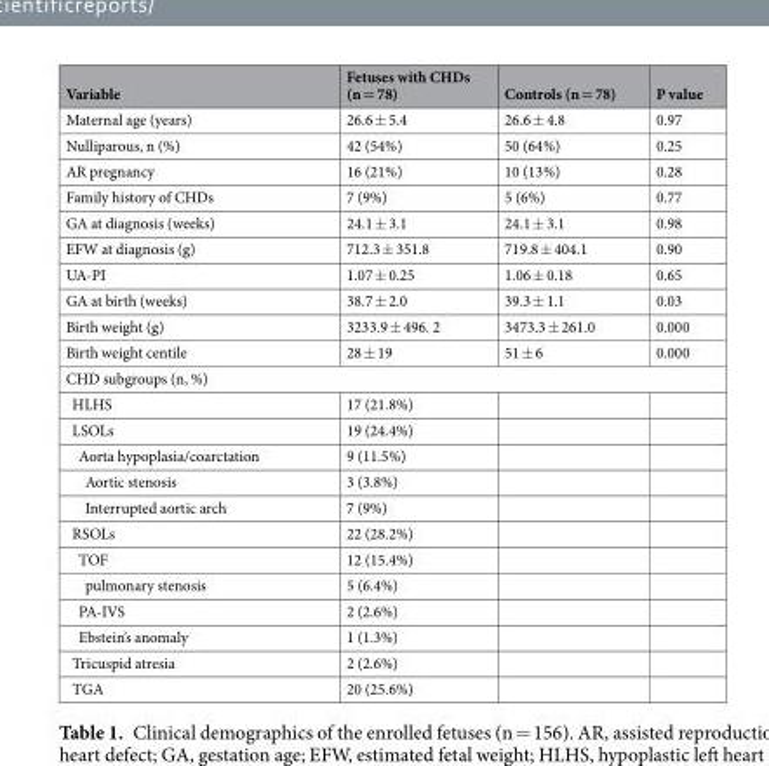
<table><thead><tr><td>Variable</td><td>Fetuses with CHDs (n = 78)</td><td>Controls (n = 78)</td><td>P value</td></tr></thead><tbody><tr><td>Maternal age (years)</td><td>26.6 ± 5.4</td><td>26.6 ± 4.8</td><td>0.97</td></tr><tr><td>Nulliparous, n (%)</td><td>42 (54%)</td><td>50 (64%)</td><td>0.25</td></tr><tr><td>AR pregnancy</td><td>16 (21%)</td><td>10 (13%)</td><td>0.28</td></tr><tr><td>Family history of CHDs</td><td>7 (9%)</td><td>5 (6%)</td><td>0.77</td></tr><tr><td>GA at diagnosis (weeks)</td><td>24.1 ± 3.1</td><td>24.1 ± 3.1</td><td>0.98</td></tr><tr><td>EFW at diagnosis (g)</td><td>712.3 ± 351.8</td><td>719.8 ± 404.1</td><td>0.90</td></tr><tr><td>UA-PI</td><td>1.07 ± 0.25</td><td>1.06 ± 0.18</td><td>0.65</td></tr><tr><td>GA at birth (weeks)</td><td>38.7 ± 2.0</td><td>39.3 ± 1.1</td><td>0.03</td></tr><tr><td>Birth weight (g)</td><td>3233.9 ± 496. 2</td><td>3473.3 ± 261.0</td><td>0.000</td></tr><tr><td>Birth weight centile</td><td>28 ± 19</td><td>51 ± 6</td><td>0.000</td></tr><tr><td colspan="4">CHD subgroups (n, %)</td></tr><tr><td>HLHS</td><td>17 (21.8%)</td><td></td><td></td></tr><tr><td>LSOLs</td><td>19 (24.4%)</td><td></td><td></td></tr><tr><td>Aorta hypoplasia/coarctation</td><td>9 (11.5%)</td><td></td><td></td></tr><tr><td>Aortic stenosis</td><td>3 (3.8%)</td><td></td><td></td></tr><tr><td>Interrupted aortic arch</td><td>7 (9%)</td><td></td><td></td></tr><tr><td>RSOLs</td><td>22 (28.2%)</td><td></td><td></td></tr><tr><td>TOF</td><td>12 (15.4%)</td><td></td><td></td></tr><tr><td>pulmonary stenosis</td><td>5 (6.4%)</td><td></td><td></td></tr><tr><td>PA-IVS</td><td>2 (2.6%)</td><td></td><td></td></tr><tr><td>Ebstein’s anomaly</td><td>1 (1.3%)</td><td></td><td></td></tr><tr><td>Tricuspid atresia</td><td>2 (2.6%)</td><td></td><td></td></tr><tr><td>TGA</td><td>20 (25.6%)</td><td></td><td></td></tr></tbody></table>